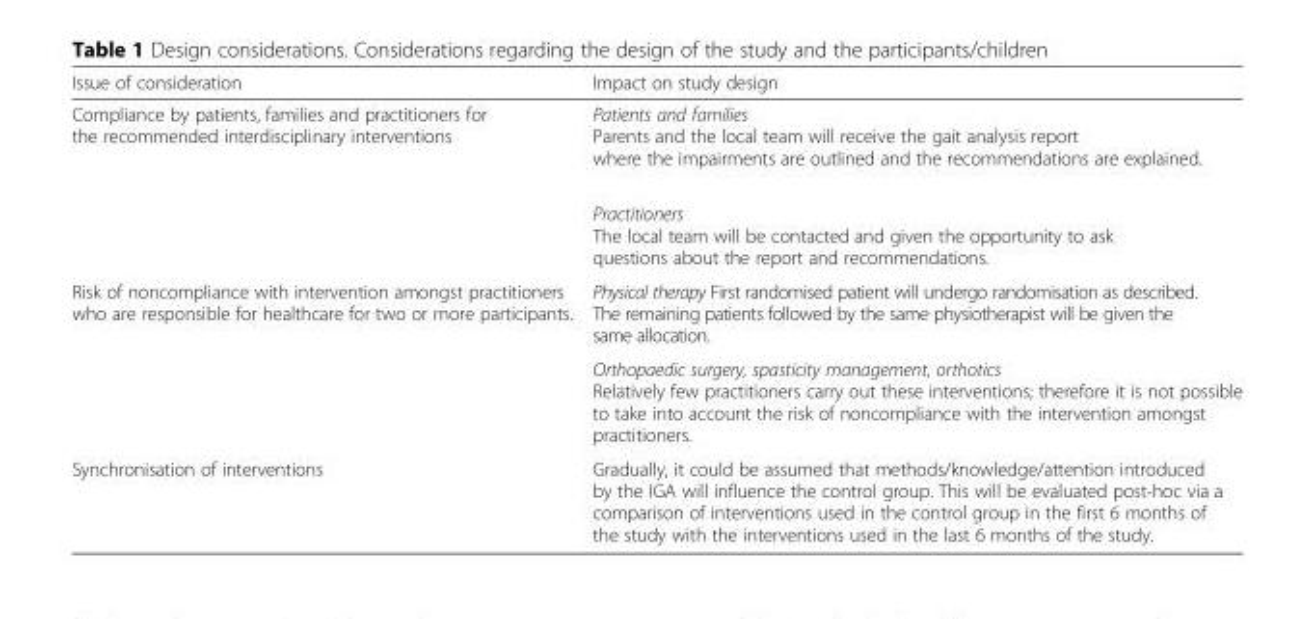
<table><thead><tr><td>Issue of consideration</td><td>Impact on study design</td></tr></thead><tbody><tr><td rowspan="2">Compliance by patients, families and practitioners for the recommended interdisciplinary interventions</td><td>Patients and families Parents and the local team will receive the gait analysis report where the impairments are outlined and the recommendations are explained.</td></tr><tr><td>Practitioners The local team will be contacted and given the opportunity to ask questions about the report and recommendations.</td></tr><tr><td rowspan="2">Risk of noncompliance with intervention amongst practitioners who are responsible for healthcare for two or more participants.</td><td>Physical therapy First randomised patient will undergo randomisation as described. The remaining patients followed by the same physiotherapist will be given the same allocation.</td></tr><tr><td>Orthopaedic surgery, spasticity management, orthotics Relatively few practitioners carry out these interventions; therefore it is not possible to take into account the risk of noncompliance with the intervention amongst practitioners.</td></tr><tr><td>Synchronisation of interventions</td><td>Gradually, it could be assumed that methods/knowledge/attention introduced by the IGA will influence the control group. This will be evaluated post-hoc via a comparison of interventions used in the control group in the first 6 months of the study with the interventions used in the last 6 months of the study.</td></tr></tbody></table>